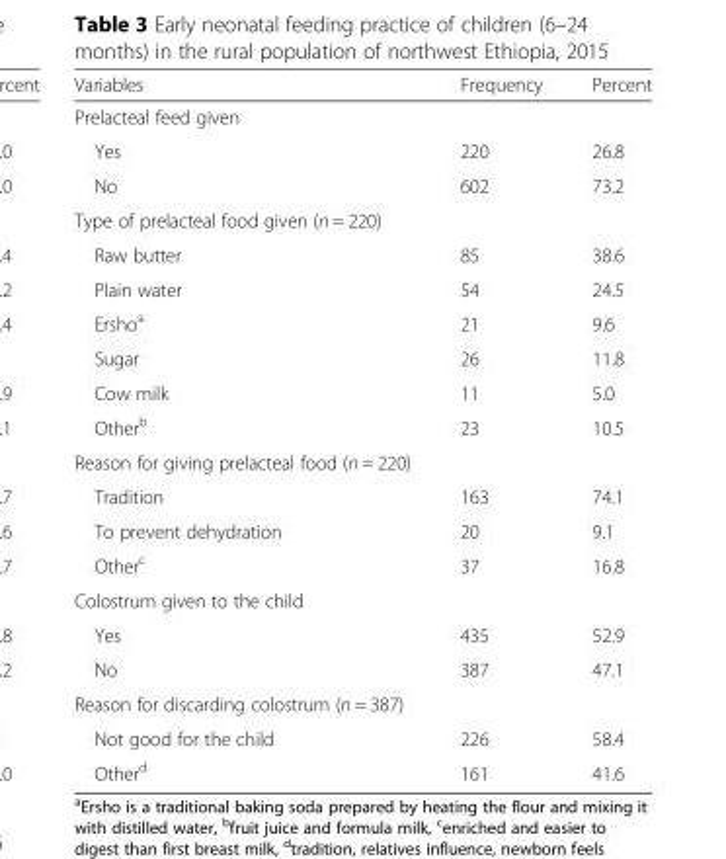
<table><thead><tr><td>Variables</td><td>Frequency</td><td>Percent</td></tr></thead><tbody><tr><td colspan="3">Prelacteal feed given</td></tr><tr><td>Yes</td><td>220</td><td>26.8</td></tr><tr><td>No</td><td>602</td><td>73.2</td></tr><tr><td colspan="3">Type of prelacteal food given (n = 220)</td></tr><tr><td>Raw butter</td><td>85</td><td>38.6</td></tr><tr><td>Plain water</td><td>54</td><td>24.5</td></tr><tr><td>Ersho<sup>a</sup></td><td>21</td><td>9.6</td></tr><tr><td>Sugar</td><td>26</td><td>11.8</td></tr><tr><td>Cow milk</td><td>11</td><td>5.0</td></tr><tr><td>Other<sup>b</sup></td><td>23</td><td>10.5</td></tr><tr><td colspan="3">Reason for giving prelacteal food (n = 220)</td></tr><tr><td>Tradition</td><td>163</td><td>74.1</td></tr><tr><td>To prevent dehydration</td><td>20</td><td>9.1</td></tr><tr><td>Other<sup>c</sup></td><td>37</td><td>16.8</td></tr><tr><td colspan="3">Colostrum given to the child</td></tr><tr><td>Yes</td><td>435</td><td>52.9</td></tr><tr><td>No</td><td>387</td><td>47.1</td></tr><tr><td colspan="3">Reason for discarding colostrum (n = 387)</td></tr><tr><td>Not good for the child</td><td>226</td><td>58.4</td></tr><tr><td>Other<sup>d</sup></td><td>161</td><td>41.6</td></tr></tbody></table>